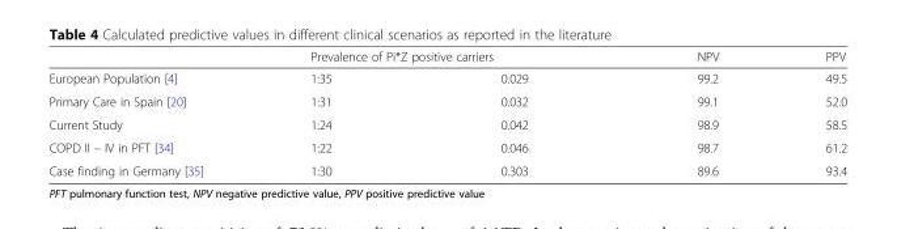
<table><thead><tr><td rowspan="2">European Population [4]</td><td colspan="2">Prevalence of Pi*Z positive carriers</td><td rowspan="2">NPV 99.2</td><td rowspan="2">PPV 49.5</td></tr><tr><td>1:35</td><td>0.029</td></tr></thead><tbody><tr><td>Primary Care in Spain [20]</td><td>1:31</td><td>0.032</td><td>99.1</td><td>52.0</td></tr><tr><td>Current Study</td><td>1:24</td><td>0.042</td><td>98.9</td><td>58.5</td></tr><tr><td>COPD II – IV in PFT [34]</td><td>1:22</td><td>0.046</td><td>98.7</td><td>61.2</td></tr><tr><td>Case finding in Germany [35]</td><td>1:30</td><td>0.303</td><td>89.6</td><td>93.4</td></tr></tbody></table>